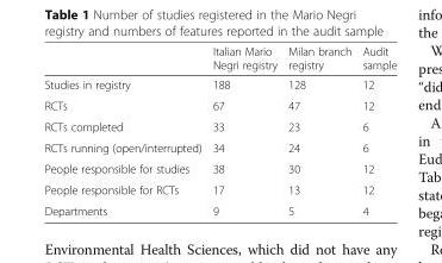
<table><thead><tr><td></td><td>Italian Mario Negri registry</td><td>Milan branch registry</td><td>Audit sample</td></tr></thead><tbody><tr><td>Studies in registry</td><td>188</td><td>128</td><td>12</td></tr><tr><td>RCTs</td><td>67</td><td>47</td><td>12</td></tr><tr><td>RCTs completed</td><td>33</td><td>23</td><td>6</td></tr><tr><td>RCTs running (open/interrupted)</td><td>34</td><td>24</td><td>6</td></tr><tr><td>People responsible for studies</td><td>38</td><td>30</td><td>12</td></tr><tr><td>People responsible for RCTs</td><td>17</td><td>13</td><td>12</td></tr><tr><td>Departments</td><td>9</td><td>5</td><td>4</td></tr></tbody></table>